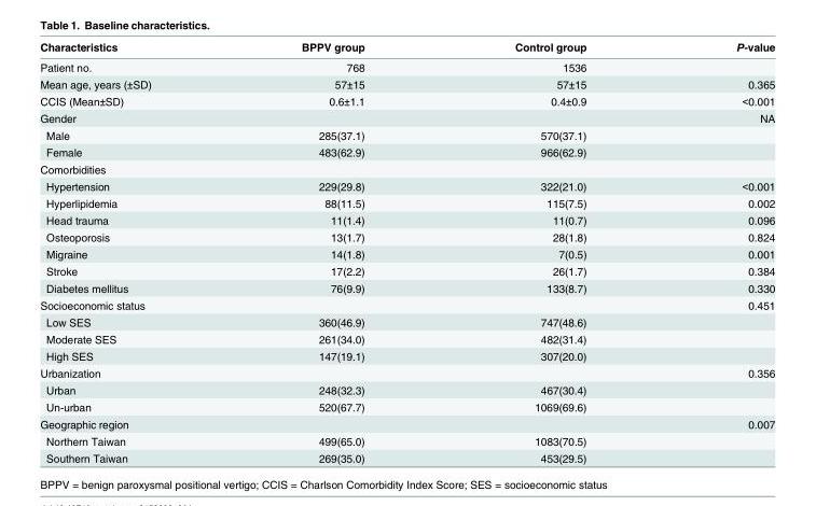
<table><thead><tr><td>Characteristics</td><td>BPPV group</td><td>Control group</td><td>P-value</td></tr></thead><tbody><tr><td>Patient no.</td><td>768</td><td>1536</td><td></td></tr><tr><td>Mean age, years (±SD)</td><td>57±15</td><td>57±15</td><td>0.365</td></tr><tr><td>CCIS (Mean±SD)</td><td>0.6±1.1</td><td>0.4±0.9</td><td>&lt;0.001</td></tr><tr><td>Gender</td><td></td><td></td><td>NA</td></tr><tr><td>Male</td><td>285(37.1)</td><td>570(37.1)</td><td></td></tr><tr><td>Female</td><td>483(62.9)</td><td>966(62.9)</td><td></td></tr><tr><td colspan="4">Comorbidities</td></tr><tr><td>Hypertension</td><td>229(29.8)</td><td>322(21.0)</td><td>&lt;0.001</td></tr><tr><td>Hyperlipidemia</td><td>88(11.5)</td><td>115(7.5)</td><td>0.002</td></tr><tr><td>Head trauma</td><td>11(1.4)</td><td>11(0.7)</td><td>0.096</td></tr><tr><td>Osteoporosis</td><td>13(1.7)</td><td>28(1.8)</td><td>0.824</td></tr><tr><td>Migraine</td><td>14(1.8)</td><td>7(0.5)</td><td>0.001</td></tr><tr><td>Stroke</td><td>17(2.2)</td><td>26(1.7)</td><td>0.384</td></tr><tr><td>Diabetes mellitus</td><td>76(9.9)</td><td>133(8.7)</td><td>0.330</td></tr><tr><td>Socioeconomic status</td><td></td><td></td><td>0.451</td></tr><tr><td>Low SES</td><td>360(46.9)</td><td>747(48.6)</td><td></td></tr><tr><td>Moderate SES</td><td>261(34.0)</td><td>482(31.4)</td><td></td></tr><tr><td>High SES</td><td>147(19.1)</td><td>307(20.0)</td><td></td></tr><tr><td>Urbanization</td><td></td><td></td><td>0.356</td></tr><tr><td>Urban</td><td>248(32.3)</td><td>467(30.4)</td><td></td></tr><tr><td>Un-urban</td><td>520(67.7)</td><td>1069(69.6)</td><td></td></tr><tr><td>Geographic region</td><td></td><td></td><td>0.007</td></tr><tr><td>Northern Taiwan</td><td>499(65.0)</td><td>1083(70.5)</td><td></td></tr><tr><td>Southern Taiwan</td><td>269(35.0)</td><td>453(29.5)</td><td></td></tr></tbody></table>